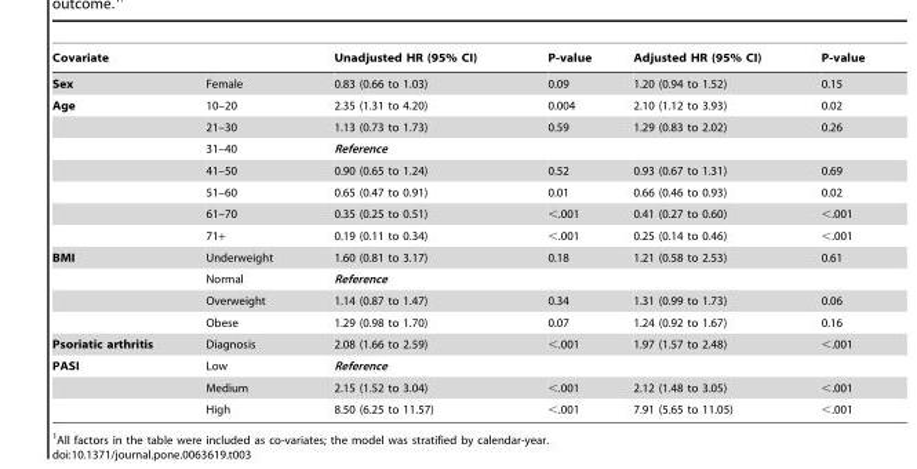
<table><thead><tr><td colspan="2">Covariate</td><td rowspan="2">Unadjusted HR (95% CI) 0.83 (0.66 to 1.03)</td><td rowspan="2">P-value 0.09</td><td rowspan="2">Adjusted HR (95% CI) 1.20 (0.94 to 1.52)</td><td rowspan="2">P-value 0.15</td></tr><tr><td>Sex</td><td>Female</td></tr></thead><tbody><tr><td rowspan="7">Age</td><td>10–20</td><td>2.35 (1.31 to 4.20)</td><td>0.004</td><td>2.10 (1.12 to 3.93)</td><td>0.02</td></tr><tr><td>21–30</td><td>1.13 (0.73 to 1.73)</td><td>0.59</td><td>1.29 (0.83 to 2.02)</td><td>0.26</td></tr><tr><td>31–40</td><td colspan="4">Reference</td></tr><tr><td>41–50</td><td>0.90 (0.65 to 1.24)</td><td>0.52</td><td>0.93 (0.67 to 1.31)</td><td>0.69</td></tr><tr><td>51–60</td><td>0.65 (0.47 to 0.91)</td><td>0.01</td><td>0.66 (0.46 to 0.93)</td><td>0.02</td></tr><tr><td>61–70</td><td>0.35 (0.25 to 0.51)</td><td>&lt;.001</td><td>0.41 (0.27 to 0.60)</td><td>&lt;.001</td></tr><tr><td>71+</td><td>0.19 (0.11 to 0.34)</td><td>&lt;.001</td><td>0.25 (0.14 to 0.46)</td><td>&lt;.001</td></tr><tr><td rowspan="4">BMI</td><td>Underweight</td><td>1.60 (0.81 to 3.17)</td><td>0.18</td><td>1.21 (0.58 to 2.53)</td><td>0.61</td></tr><tr><td>Normal</td><td colspan="4">Reference</td></tr><tr><td>Overweight</td><td>1.14 (0.87 to 1.47)</td><td>0.34</td><td>1.31 (0.99 to 1.73)</td><td>0.06</td></tr><tr><td>Obese</td><td>1.29 (0.98 to 1.70)</td><td>0.07</td><td>1.24 (0.92 to 1.67)</td><td>0.16</td></tr><tr><td>Psoriatic arthritis</td><td>Diagnosis</td><td>2.08 (1.66 to 2.59)</td><td>&lt;.001</td><td>1.97 (1.57 to 2.48)</td><td>&lt;.001</td></tr><tr><td rowspan="3">PASI</td><td>Low</td><td colspan="4">Reference</td></tr><tr><td>Medium</td><td>2.15 (1.52 to 3.04)</td><td>&lt;.001</td><td>2.12 (1.48 to 3.05)</td><td>&lt;.001</td></tr><tr><td>High</td><td>8.50 (6.25 to 11.57)</td><td>&lt;.001</td><td>7.91 (5.65 to 11.05)</td><td>&lt;.001</td></tr></tbody></table>